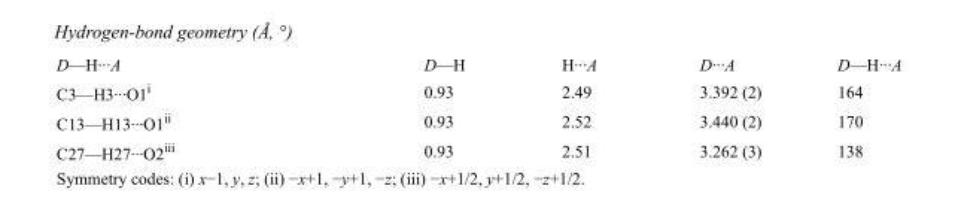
<table><tbody><tr><td>D—H···A</td><td>D—H</td><td>H···A</td><td>D···A</td><td>D—H···A</td></tr><tr><td>C3—H3···O1<sup>i</sup></td><td>0.93</td><td>2.49</td><td>3.392 (2)</td><td>164</td></tr><tr><td>C13—H13···O1<sup>ii</sup></td><td>0.93</td><td>2.52</td><td>3.440 (2)</td><td>170</td></tr><tr><td>C27—H27···O2<sup>iii</sup></td><td>0.93</td><td>2.51</td><td>3.262 (3)</td><td>138</td></tr></tbody></table>